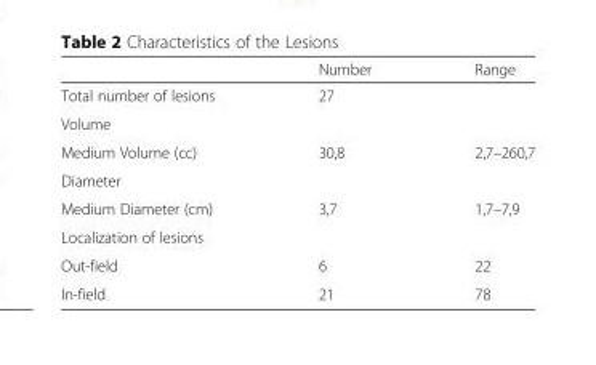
<table><thead><tr><td></td><td>Number</td><td>Range</td></tr></thead><tbody><tr><td>Total number of lesions</td><td>27</td><td></td></tr><tr><td colspan="3">Volume</td></tr><tr><td>Medium Volume (cc)</td><td>30,8</td><td>2,7–260,7</td></tr><tr><td colspan="3">Diameter</td></tr><tr><td>Medium Diameter (cm)</td><td>3,7</td><td>1,7–7,9</td></tr><tr><td colspan="3">Localization of lesions</td></tr><tr><td>Out-field</td><td>6</td><td>22</td></tr><tr><td>In-field</td><td>21</td><td>78</td></tr></tbody></table>